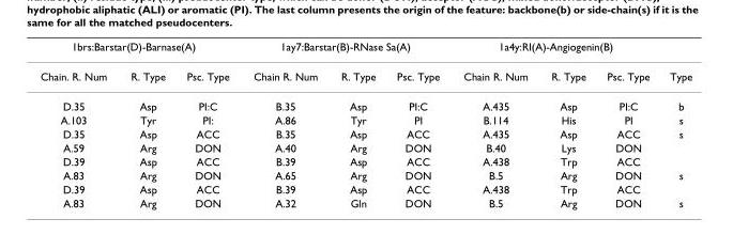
<table><thead><tr><td colspan="3">1brs:Barstar(D)-Barnase(A)</td><td colspan="3">1ay7:Barstar(B)-RNase Sa(A)</td><td colspan="3">1a4y:RI(A)-Angiogenin(B)</td><td rowspan="2">Type</td></tr><tr><td>Chain. R. Num</td><td>R. Type</td><td>Psc. Type</td><td>Chain R. Num</td><td>R. Type</td><td>Psc. Type</td><td>Chain R. Num</td><td>R. Type</td><td>Psc. Type</td></tr></thead><tbody><tr><td>D.35</td><td>Asp</td><td>PI:C</td><td>B.35</td><td>Asp</td><td>PI:C</td><td>A.435</td><td>Asp</td><td>PI:C</td><td>b</td></tr><tr><td>A.103</td><td>Tyr</td><td>PI:</td><td>A.86</td><td>Tyr</td><td>PI</td><td>B.114</td><td>His</td><td>PI</td><td>s</td></tr><tr><td>D.35</td><td>Asp</td><td>ACC</td><td>B.35</td><td>Asp</td><td>ACC</td><td>A.435</td><td>Asp</td><td>ACC</td><td>s</td></tr><tr><td>A.59</td><td>Arg</td><td>DON</td><td>A.40</td><td>Arg</td><td>DON</td><td>B.40</td><td>Lys</td><td>DON</td><td></td></tr><tr><td>D.39</td><td>Asp</td><td>ACC</td><td>B.39</td><td>Asp</td><td>ACC</td><td>A.438</td><td>Trp</td><td>ACC</td><td></td></tr><tr><td>A.83</td><td>Arg</td><td>DON</td><td>A.65</td><td>Arg</td><td>DON</td><td>B.5</td><td>Arg</td><td>DON</td><td>s</td></tr><tr><td>D.39</td><td>Asp</td><td>ACC</td><td>B.39</td><td>Asp</td><td>ACC</td><td>A.438</td><td>Trp</td><td>ACC</td><td></td></tr><tr><td>A.83</td><td>Arg</td><td>DON</td><td>A.32</td><td>Gln</td><td>DON</td><td>B.5</td><td>Arg</td><td>DON</td><td>s</td></tr></tbody></table>